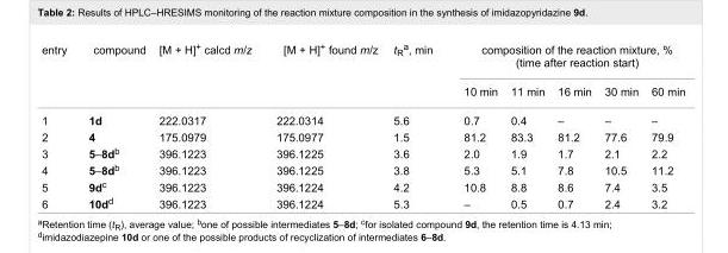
<table><tbody><tr><td rowspan="2">entry</td><td>compound</td><td>[M + H]<sup>+</sup> calcd m/z</td><td>[M + H]<sup>+</sup> found m/z</td><td>t<sub>R</sub><sup>a</sup>, min</td><td colspan="5">composition of the reaction mixture, % (time after reaction start)</td></tr><tr><td></td><td></td><td></td><td></td><td>10 min</td><td>11 min</td><td>16 min</td><td>30 min</td><td>60 min</td></tr><tr><td>1</td><td>1d</td><td>222.0317</td><td>222.0314</td><td>5.6</td><td>0.7</td><td>0.4</td><td>–</td><td>–</td><td>–</td></tr><tr><td>2</td><td>4</td><td>175.0979</td><td>175.0977</td><td>1.5</td><td>81.2</td><td>83.3</td><td>81.2</td><td>77.6</td><td>79.9</td></tr><tr><td>3</td><td>5–8d<sup>b</sup></td><td>396.1223</td><td>396.1225</td><td>3.6</td><td>2.0</td><td>1.9</td><td>1.7</td><td>2.1</td><td>2.2</td></tr><tr><td>4</td><td>5–8d<sup>b</sup></td><td>396.1223</td><td>396.1225</td><td>3.8</td><td>5.3</td><td>5.1</td><td>7.8</td><td>10.5</td><td>11.2</td></tr><tr><td>5</td><td>9d<sup>c</sup></td><td>396.1223</td><td>396.1224</td><td>4.2</td><td>10.8</td><td>8.8</td><td>8.6</td><td>7.4</td><td>3.5</td></tr><tr><td>6</td><td>10d<sup>d</sup></td><td>396.1223</td><td>396.1224</td><td>5.3</td><td>–</td><td>0.5</td><td>0.7</td><td>2.4</td><td>3.2</td></tr></tbody></table>